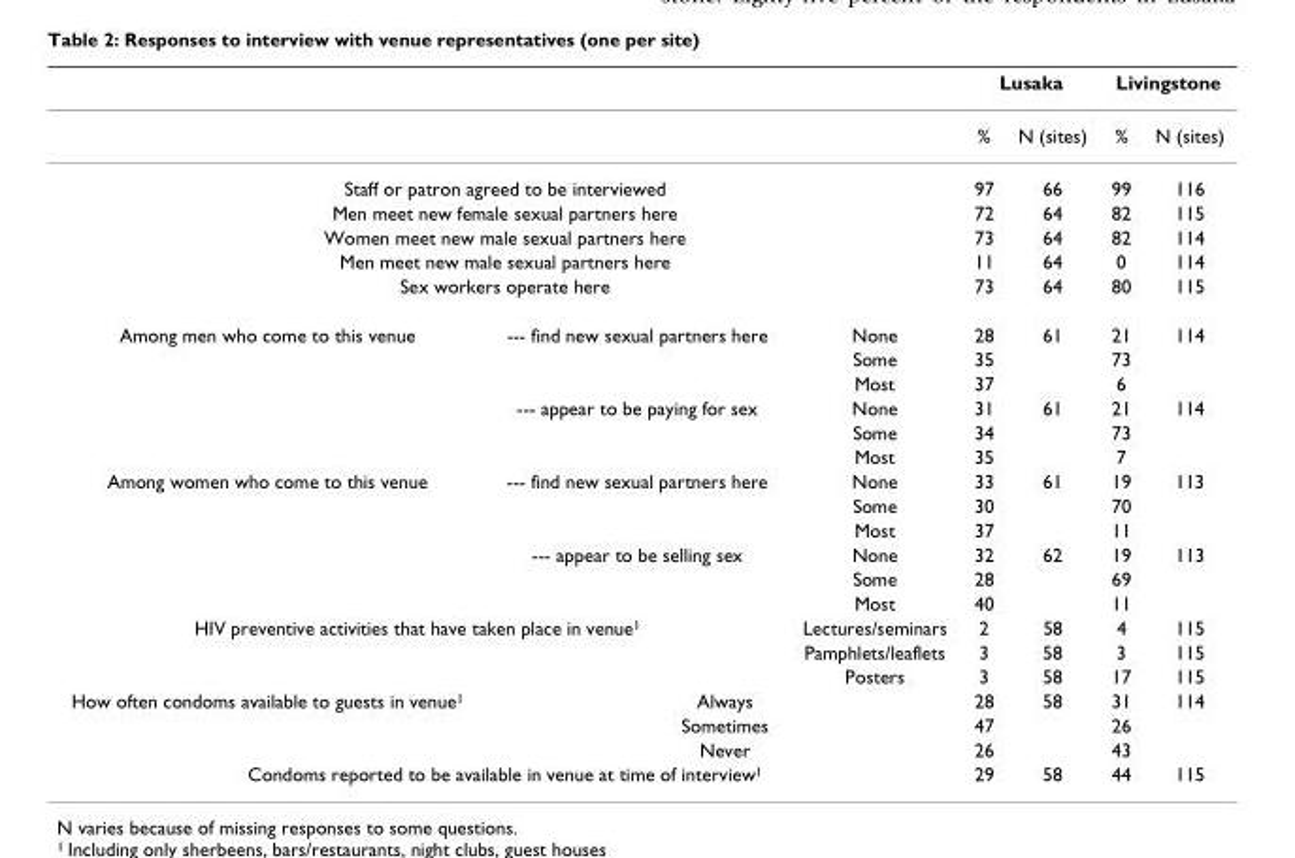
<table><thead><tr><td rowspan="2"></td><td rowspan="2"></td><td rowspan="2"></td><td colspan="2">Lusaka</td><td colspan="2">Livingstone</td></tr><tr><td>%</td><td>N (sites)</td><td>%</td><td>N (sites)</td></tr></thead><tbody><tr><td colspan="3">Staff or patron agreed to be interviewed</td><td>97</td><td>66</td><td>99</td><td>116</td></tr><tr><td colspan="3">Men meet new female sexual partners here</td><td>72</td><td>64</td><td>82</td><td>115</td></tr><tr><td colspan="3">Women meet new male sexual partners here</td><td>73</td><td>64</td><td>82</td><td>114</td></tr><tr><td colspan="3">Men meet new male sexual partners here</td><td>11</td><td>64</td><td>0</td><td>114</td></tr><tr><td colspan="3">Sex workers operate here</td><td>73</td><td>64</td><td>80</td><td>115</td></tr><tr><td rowspan="6">Among men who come to this venue</td><td>--- find new sexual partners here</td><td>None</td><td>28</td><td>61</td><td>21</td><td>114</td></tr><tr><td></td><td>Some</td><td>35</td><td></td><td>73</td><td></td></tr><tr><td></td><td>Most</td><td>37</td><td></td><td>6</td><td></td></tr><tr><td>--- appear to be paying for sex</td><td>None</td><td>31</td><td>61</td><td>21</td><td>114</td></tr><tr><td></td><td>Some</td><td>34</td><td></td><td>73</td><td></td></tr><tr><td></td><td>Most</td><td>35</td><td></td><td>7</td><td></td></tr><tr><td rowspan="6">Among women who come to this venue</td><td>--- find new sexual partners here</td><td>None</td><td>33</td><td>61</td><td>19</td><td>113</td></tr><tr><td></td><td>Some</td><td>30</td><td></td><td>70</td><td></td></tr><tr><td></td><td>Most</td><td>37</td><td></td><td>11</td><td></td></tr><tr><td>--- appear to be selling sex</td><td>None</td><td>32</td><td>62</td><td>19</td><td>113</td></tr><tr><td></td><td>Some</td><td>28</td><td></td><td>69</td><td></td></tr><tr><td></td><td>Most</td><td>40</td><td></td><td>11</td><td></td></tr><tr><td colspan="2">HIV preventive activities that have taken place in venue<sup>1</sup></td><td>Lectures/seminars</td><td>2</td><td>58</td><td>4</td><td>115</td></tr><tr><td></td><td></td><td>Pamphlets/leaflets</td><td>3</td><td>58</td><td>3</td><td>115</td></tr><tr><td></td><td></td><td>Posters</td><td>3</td><td>58</td><td>17</td><td>115</td></tr><tr><td rowspan="3">How often condoms available to guests in venue<sup>1</sup></td><td colspan="2">Always</td><td>28</td><td>58</td><td>31</td><td>114</td></tr><tr><td colspan="2">Sometimes</td><td>47</td><td></td><td>26</td><td></td></tr><tr><td colspan="2">Never</td><td>26</td><td></td><td>43</td><td></td></tr><tr><td colspan="3">Condoms reported to be available in venue at time of interview<sup>1</sup></td><td>29</td><td>58</td><td>44</td><td>115</td></tr></tbody></table>